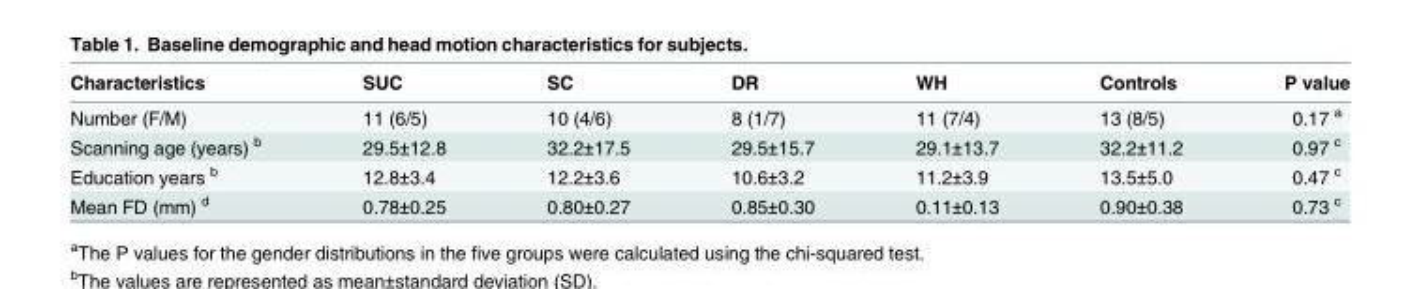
<table><thead><tr><td>Characteristics</td><td>SUC</td><td>SC</td><td>DR</td><td>WH</td><td>Controls</td><td>P value</td></tr></thead><tbody><tr><td>Number (F/M)</td><td>11 (6/5)</td><td>10 (4/6)</td><td>8 (1/7)</td><td>11 (7/4)</td><td>13 (8/5)</td><td>0.17 <sup>a</sup></td></tr><tr><td>Scanning age (years) <sup>b</sup></td><td>29.5±12.8</td><td>32.2±17.5</td><td>29.5±15.7</td><td>29.1±13.7</td><td>32.2±11.2</td><td>0.97 <sup>c</sup></td></tr><tr><td>Education years <sup>b</sup></td><td>12.8±3.4</td><td>12.2±3.6</td><td>10.6±3.2</td><td>11.2±3.9</td><td>13.5±5.0</td><td>0.47 <sup>c</sup></td></tr><tr><td>Mean FD (mm) <sup>d</sup></td><td>0.78±0.25</td><td>0.80±0.27</td><td>0.85±0.30</td><td>0.11±0.13</td><td>0.90±0.38</td><td>0.73 <sup>c</sup></td></tr></tbody></table>